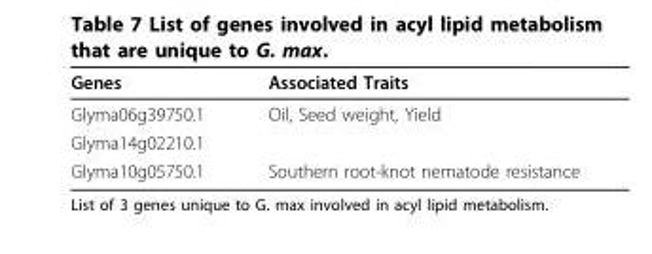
<table><thead><tr><td>Genes</td><td>Associated Traits</td></tr></thead><tbody><tr><td>Glyma06g39750.1</td><td>Oil, Seed weight, Yield</td></tr><tr><td colspan="2">Glyma14g02210.1</td></tr><tr><td>Glyma10g05750.1</td><td>Southern root-knot nematode resistance</td></tr></tbody></table>